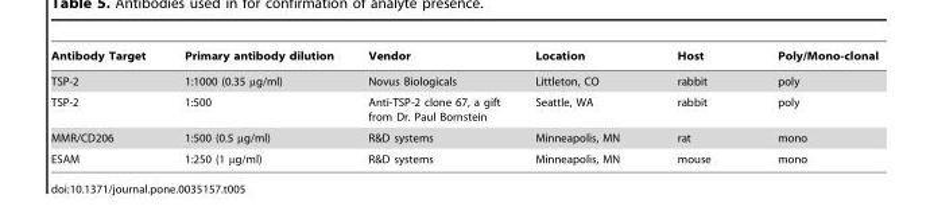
<table><thead><tr><td>Antibody Target</td><td>Primary antibody dilution</td><td>Vendor</td><td>Location</td><td>Host</td><td>Poly/Mono-clonal</td></tr></thead><tbody><tr><td>TSP-2</td><td>1:1000 (0.35 µg/ml)</td><td>Novus Biologicals</td><td>Littleton, CO</td><td>rabbit</td><td>poly</td></tr><tr><td>TSP-2</td><td>1:500</td><td>Anti-TSP-2 clone 67, a gift from Dr. Paul Bornstein</td><td>Seattle, WA</td><td>rabbit</td><td>poly</td></tr><tr><td>MMR/CD206</td><td>1:500 (0.5 µg/ml)</td><td>R&amp;D systems</td><td>Minneapolis, MN</td><td>rat</td><td>mono</td></tr><tr><td>ESAM</td><td>1:250 (1 µg/ml)</td><td>R&amp;D systems</td><td>Minneapolis, MN</td><td>mouse</td><td>mono</td></tr></tbody></table>